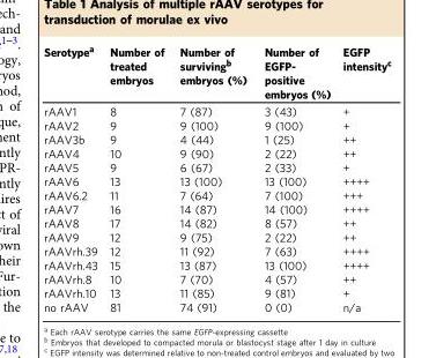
<table><thead><tr><td>Serotype<sup>a</sup></td><td>Number of treated embryos</td><td>Number of surviving<sup>b</sup> embryos (%)</td><td>Number of EGFP- positive embryos (%)</td><td>EGFP intensity<sup>c</sup></td></tr></thead><tbody><tr><td>rAAV1</td><td>8</td><td>7 (87)</td><td>3 (43)</td><td>+</td></tr><tr><td>rAAV2</td><td>9</td><td>9 (100)</td><td>9 (100)</td><td>+</td></tr><tr><td>rAAV3b</td><td>9</td><td>4 (44)</td><td>1 (25)</td><td>++</td></tr><tr><td>rAAV4</td><td>10</td><td>9 (90)</td><td>2 (22)</td><td>++</td></tr><tr><td>rAAV5</td><td>9</td><td>6 (67)</td><td>2 (33)</td><td>+</td></tr><tr><td>rAAV6</td><td>13</td><td>13 (100)</td><td>13 (100)</td><td>++++</td></tr><tr><td>rAAV6.2</td><td>11</td><td>7 (64)</td><td>7 (100)</td><td>+++</td></tr><tr><td>rAAV7</td><td>16</td><td>14 (87)</td><td>14 (100)</td><td>++++</td></tr><tr><td>rAAV8</td><td>17</td><td>14 (82)</td><td>8 (57)</td><td>++</td></tr><tr><td>rAAV9</td><td>12</td><td>9 (75)</td><td>2 (22)</td><td>++</td></tr><tr><td>rAAVrh.39</td><td>12</td><td>11 (92)</td><td>7 (63)</td><td>++++</td></tr><tr><td>rAAVrh.43</td><td>15</td><td>13 (87)</td><td>13 (100)</td><td>++++</td></tr><tr><td>rAAVrh.8</td><td>10</td><td>7 (70)</td><td>4 (57)</td><td>++</td></tr><tr><td>rAAVrh.10</td><td>13</td><td>11 (85)</td><td>9 (81)</td><td>+</td></tr><tr><td>no rAAV</td><td>81</td><td>74 (91)</td><td>0 (0)</td><td>n/a</td></tr></tbody></table>